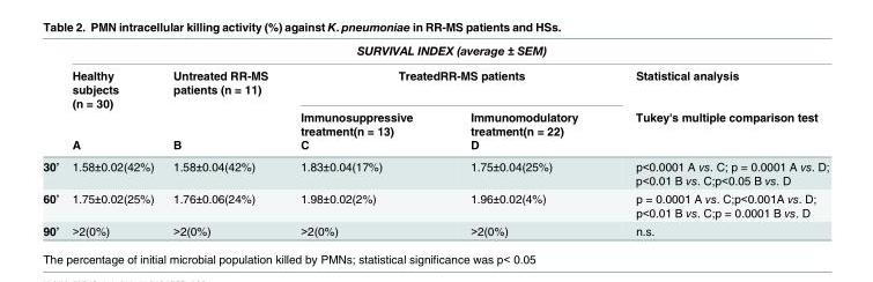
<table><thead><tr><td rowspan="4"></td><td colspan="5">SURVIVAL INDEX (average ± SEM)</td></tr><tr><td rowspan="3">Healthy subjects (n = 30) A</td><td rowspan="3">Untreated RR-MS patients (n = 11) B</td><td colspan="2">TreatedRR-MS patients</td><td rowspan="3">Statistical analysis Tukey&#x27;s multiple comparison test</td></tr><tr><td rowspan="2">Immunosuppressive treatment(n = 13) C</td><td rowspan="2">Immunomodulatory treatment(n = 22) D</td></tr><tr></tr></thead><tbody><tr><td>30’</td><td>1.58±0.02(42%)</td><td>1.58±0.04(42%)</td><td>1.83±0.04(17%)</td><td>1.75±0.04(25%)</td><td>p&lt;0.0001 A vs. C; p = 0.0001 A vs. D; p&lt;0.01 B vs. C;p&lt;0.05 B vs. D</td></tr><tr><td>60’</td><td>1.75±0.02(25%)</td><td>1.76±0.06(24%)</td><td>1.98±0.02(2%)</td><td>1.96±0.02(4%)</td><td>p = 0.0001 A vs. C;p&lt;0.001A vs. D; p&lt;0.01 B vs. C;p = 0.0001 B vs. D</td></tr><tr><td>90’</td><td>&gt;2(0%)</td><td>&gt;2(0%)</td><td>&gt;2(0%)</td><td>&gt;2(0%)</td><td>n.s.</td></tr></tbody></table>